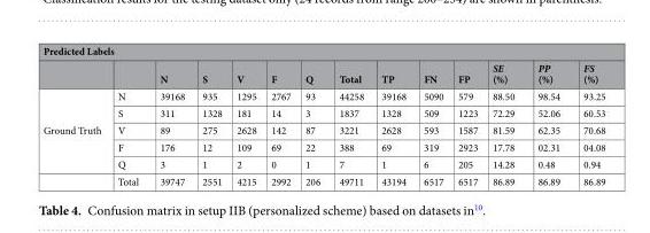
<table><thead><tr><td colspan="14">Predicted Labels</td></tr><tr><td></td><td></td><td>N</td><td>S</td><td>V</td><td>F</td><td>Q</td><td>Total</td><td>TP</td><td>FN</td><td>FP</td><td>SE (%)</td><td>PP (%)</td><td>FS (%)</td></tr></thead><tbody><tr><td rowspan="6">Ground Truth</td><td>N</td><td>39168</td><td>935</td><td>1295</td><td>2767</td><td>93</td><td>44258</td><td>39168</td><td>5090</td><td>579</td><td>88.50</td><td>98.54</td><td>93.25</td></tr><tr><td>S</td><td>311</td><td>1328</td><td>181</td><td>14</td><td>3</td><td>1837</td><td>1328</td><td>509</td><td>1223</td><td>72.29</td><td>52.06</td><td>60.53</td></tr><tr><td>V</td><td>89</td><td>275</td><td>2628</td><td>142</td><td>87</td><td>3221</td><td>2628</td><td>593</td><td>1587</td><td>81.59</td><td>62.35</td><td>70.68</td></tr><tr><td>F</td><td>176</td><td>12</td><td>109</td><td>69</td><td>22</td><td>388</td><td>69</td><td>319</td><td>2923</td><td>17.78</td><td>02.31</td><td>04.08</td></tr><tr><td>Q</td><td>3</td><td>1</td><td>2</td><td>0</td><td>1</td><td>7</td><td>1</td><td>6</td><td>205</td><td>14.28</td><td>0.48</td><td>0.94</td></tr><tr><td>Total</td><td>39747</td><td>2551</td><td>4215</td><td>2992</td><td>206</td><td>49711</td><td>43194</td><td>6517</td><td>6517</td><td>86.89</td><td>86.89</td><td>86.89</td></tr></tbody></table>